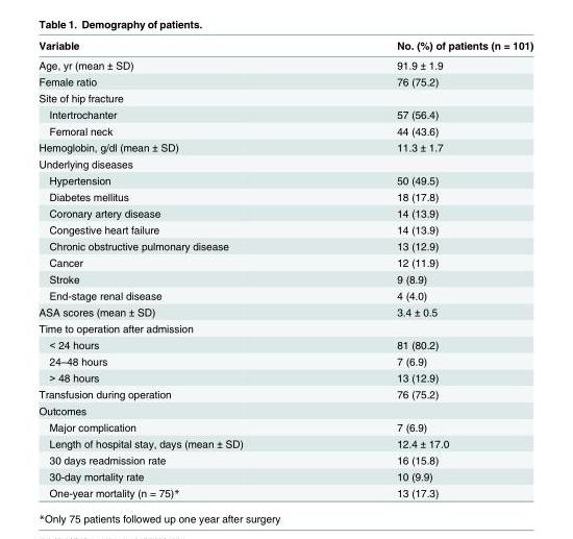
<table><thead><tr><td>Variable</td><td>No. (%) of patients (n = 101)</td></tr></thead><tbody><tr><td>Age, yr (mean ± SD)</td><td>91.9 ± 1.9</td></tr><tr><td>Female ratio</td><td>76 (75.2)</td></tr><tr><td colspan="2">Site of hip fracture</td></tr><tr><td>Intertrochanter</td><td>57 (56.4)</td></tr><tr><td>Femoral neck</td><td>44 (43.6)</td></tr><tr><td>Hemoglobin, g/dl (mean ± SD)</td><td>11.3 ± 1.7</td></tr><tr><td colspan="2">Underlying diseases</td></tr><tr><td>Hypertension</td><td>50 (49.5)</td></tr><tr><td>Diabetes mellitus</td><td>18 (17.8)</td></tr><tr><td>Coronary artery disease</td><td>14 (13.9)</td></tr><tr><td>Congestive heart failure</td><td>14 (13.9)</td></tr><tr><td>Chronic obstructive pulmonary disease</td><td>13 (12.9)</td></tr><tr><td>Cancer</td><td>12 (11.9)</td></tr><tr><td>Stroke</td><td>9 (8.9)</td></tr><tr><td>End-stage renal disease</td><td>4 (4.0)</td></tr><tr><td>ASA scores (mean ± SD)</td><td>3.4 ± 0.5</td></tr><tr><td colspan="2">Time to operation after admission</td></tr><tr><td>&lt; 24 hours</td><td>81 (80.2)</td></tr><tr><td>24–48 hours</td><td>7 (6.9)</td></tr><tr><td>&gt; 48 hours</td><td>13 (12.9)</td></tr><tr><td>Transfusion during operation</td><td>76 (75.2)</td></tr><tr><td colspan="2">Outcomes</td></tr><tr><td>Major complication</td><td>7 (6.9)</td></tr><tr><td>Length of hospital stay, days (mean ± SD)</td><td>12.4 ± 17.0</td></tr><tr><td>30 days readmission rate</td><td>16 (15.8)</td></tr><tr><td>30-day mortality rate</td><td>10 (9.9)</td></tr><tr><td>One-year mortality (n = 75)*</td><td>13 (17.3)</td></tr></tbody></table>